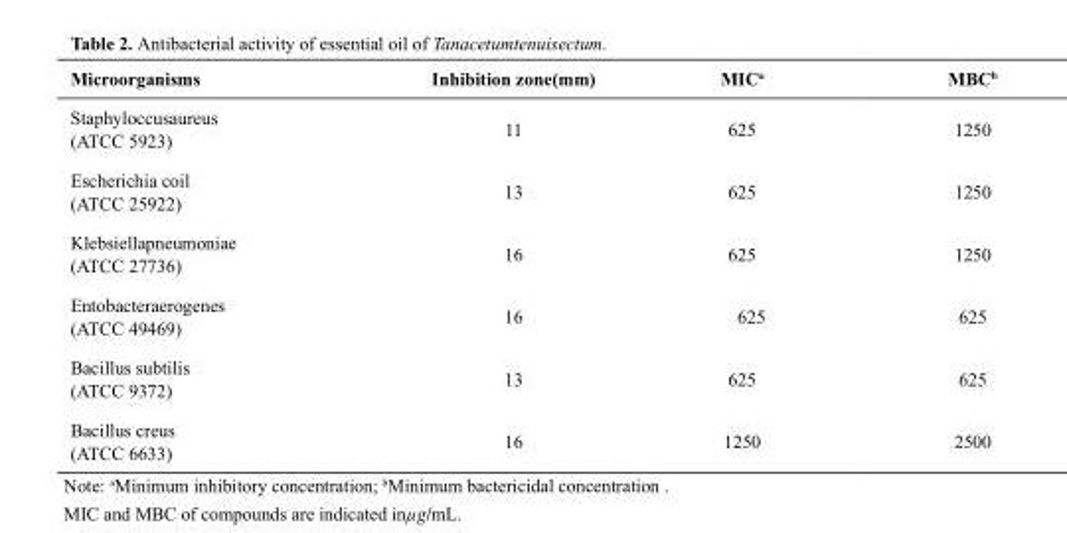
<table><thead><tr><td>Microorganisms</td><td>Inhibition zone(mm)</td><td>MICa</td><td>MBCb</td></tr></thead><tbody><tr><td>Staphyloccusaureus (ATCC 5923)</td><td>11</td><td>625</td><td>1250</td></tr><tr><td>Escherichia coil (ATCC 25922)</td><td>13</td><td>625</td><td>1250</td></tr><tr><td>Klebsiellapneumoniae (ATCC 27736)</td><td>16</td><td>625</td><td>1250</td></tr><tr><td>Entobacteraerogenes (ATCC 49469)</td><td>16</td><td>625</td><td>625</td></tr><tr><td>Bacillus subtilis (ATCC 9372)</td><td>13</td><td>625</td><td>625</td></tr><tr><td>Bacillus creus (ATCC 6633)</td><td>16</td><td>1250</td><td>2500</td></tr></tbody></table>